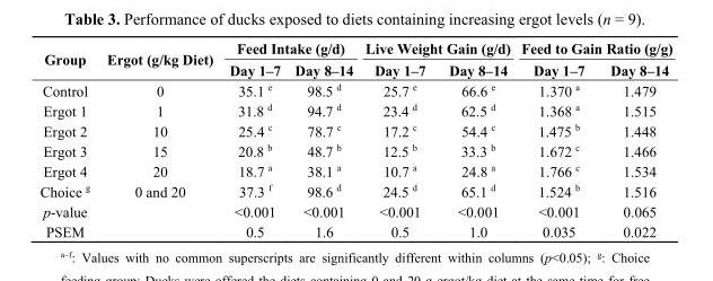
<table><thead><tr><td rowspan="2">Group</td><td rowspan="2">Ergot (g/kg Diet)</td><td colspan="2">Feed Intake (g/d)</td><td colspan="2">Live Weight Gain (g/d)</td><td colspan="2">Feed to Gain Ratio (g/g)</td></tr><tr><td>Day 1–7</td><td>Day 8–14</td><td>Day 1–7</td><td>Day 8–14</td><td>Day 1–7</td><td>Day 8–14</td></tr></thead><tbody><tr><td>Control</td><td>0</td><td>35.1 <sup>e</sup></td><td>98.5 <sup>d</sup></td><td>25.7 <sup>e</sup></td><td>66.6 <sup>e</sup></td><td>1.370 <sup>a</sup></td><td>1.479</td></tr><tr><td>Ergot 1</td><td>1</td><td>31.8 <sup>d</sup></td><td>94.7 <sup>d</sup></td><td>23.4 <sup>d</sup></td><td>62.5 <sup>d</sup></td><td>1.368 <sup>a</sup></td><td>1.515</td></tr><tr><td>Ergot 2</td><td>10</td><td>25.4 <sup>c</sup></td><td>78.7 <sup>c</sup></td><td>17.2 <sup>c</sup></td><td>54.4 <sup>c</sup></td><td>1.475 <sup>b</sup></td><td>1.448</td></tr><tr><td>Ergot 3</td><td>15</td><td>20.8 <sup>b</sup></td><td>48.7 <sup>b</sup></td><td>12.5 <sup>b</sup></td><td>33.3 <sup>b</sup></td><td>1.672 <sup>c</sup></td><td>1.466</td></tr><tr><td>Ergot 4</td><td>20</td><td>18.7 <sup>a</sup></td><td>38.1 <sup>a</sup></td><td>10.7 <sup>a</sup></td><td>24.8 <sup>a</sup></td><td>1.766 <sup>c</sup></td><td>1.534</td></tr><tr><td>Choice <sup>g</sup></td><td>0 and 20</td><td>37.3 <sup>f</sup></td><td>98.6 <sup>d</sup></td><td>24.5 <sup>d</sup></td><td>65.1 <sup>d</sup></td><td>1.524 <sup>b</sup></td><td>1.516</td></tr><tr><td>p-value</td><td></td><td>&lt;0.001</td><td>&lt;0.001</td><td>&lt;0.001</td><td>&lt;0.001</td><td>&lt;0.001</td><td>0.065</td></tr><tr><td>PSEM</td><td></td><td>0.5</td><td>1.6</td><td>0.5</td><td>1.0</td><td>0.035</td><td>0.022</td></tr></tbody></table>